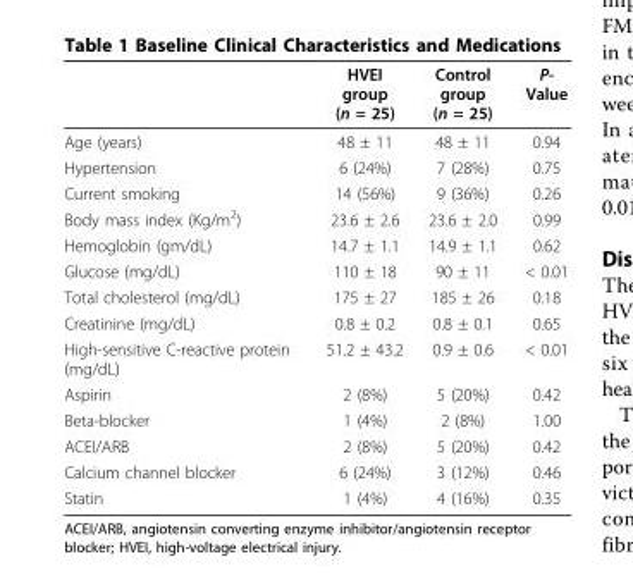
<table><thead><tr><td></td><td>HVEI group (n = 25)</td><td>Control group (n = 25)</td><td>P- Value</td></tr></thead><tbody><tr><td>Age (years)</td><td>48 ± 11</td><td>48 ± 11</td><td>0.94</td></tr><tr><td>Hypertension</td><td>6 (24%)</td><td>7 (28%)</td><td>0.75</td></tr><tr><td>Current smoking</td><td>14 (56%)</td><td>9 (36%)</td><td>0.26</td></tr><tr><td>Body mass index (Kg/m<sup>2</sup>)</td><td>23.6 ± 2.6</td><td>23.6 ± 2.0</td><td>0.99</td></tr><tr><td>Hemoglobin (gm/dL)</td><td>14.7 ± 1.1</td><td>14.9 ± 1.1</td><td>0.62</td></tr><tr><td>Glucose (mg/dL)</td><td>110 ± 18</td><td>90 ± 11</td><td>&lt; 0.01</td></tr><tr><td>Total cholesterol (mg/dL)</td><td>175 ± 27</td><td>185 ± 26</td><td>0.18</td></tr><tr><td>Creatinine (mg/dL)</td><td>0.8 ± 0.2</td><td>0.8 ± 0.1</td><td>0.65</td></tr><tr><td>High-sensitive C-reactive protein (mg/dL)</td><td>51.2 ± 43.2</td><td>0.9 ± 0.6</td><td>&lt; 0.01</td></tr><tr><td>Aspirin</td><td>2 (8%)</td><td>5 (20%)</td><td>0.42</td></tr><tr><td>Beta-blocker</td><td>1 (4%)</td><td>2 (8%)</td><td>1.00</td></tr><tr><td>ACEI/ARB</td><td>2 (8%)</td><td>5 (20%)</td><td>0.42</td></tr><tr><td>Calcium channel blocker</td><td>6 (24%)</td><td>3 (12%)</td><td>0.46</td></tr><tr><td>Statin</td><td>1 (4%)</td><td>4 (16%)</td><td>0.35</td></tr></tbody></table>